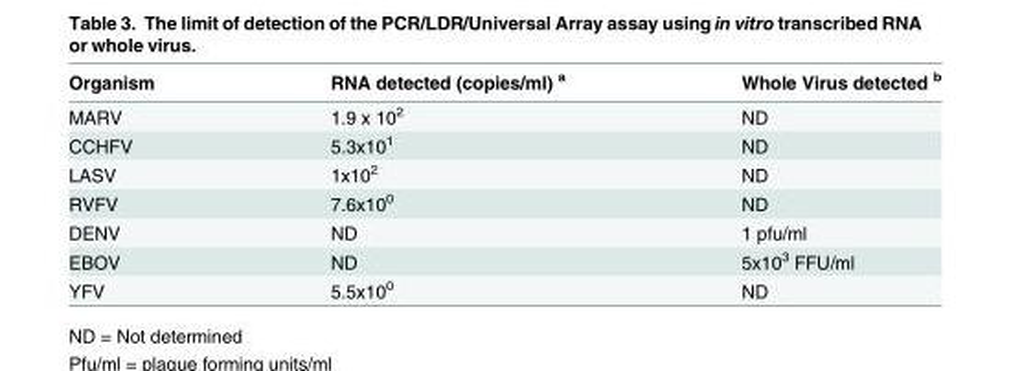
<table><thead><tr><td>Organism</td><td>RNA detected (copies/ml) <sup>a</sup></td><td>Whole Virus detected <sup>b</sup></td></tr></thead><tbody><tr><td>MARV</td><td>1.9 x 10<sup>2</sup></td><td>ND</td></tr><tr><td>CCHFV</td><td>5.3x10<sup>1</sup></td><td>ND</td></tr><tr><td>LASV</td><td>1x10<sup>2</sup></td><td>ND</td></tr><tr><td>RVFV</td><td>7.6x10<sup>0</sup></td><td>ND</td></tr><tr><td>DENV</td><td>ND</td><td>1 pfu/ml</td></tr><tr><td>EBOV</td><td>ND</td><td>5x10<sup>3</sup> FFU/ml</td></tr><tr><td>YFV</td><td>5.5x10<sup>0</sup></td><td>ND</td></tr></tbody></table>